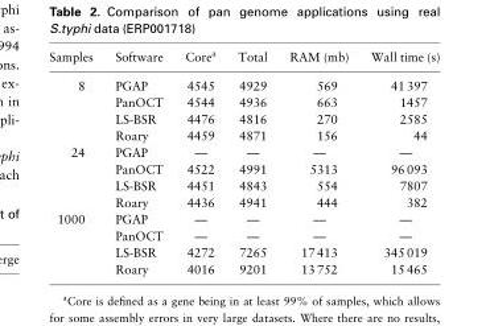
<table><thead><tr><td>Samples</td><td>Software</td><td>Core<sup>a</sup></td><td>Total</td><td>RAM (mb)</td><td>Wall time (s)</td></tr></thead><tbody><tr><td rowspan="4">8</td><td>PGAP</td><td>4545</td><td>4929</td><td>569</td><td>41 397</td></tr><tr><td>PanOCT</td><td>4544</td><td>4936</td><td>663</td><td>1457</td></tr><tr><td>LS-BSR</td><td>4476</td><td>4816</td><td>270</td><td>2585</td></tr><tr><td>Roary</td><td>4459</td><td>4871</td><td>156</td><td>44</td></tr><tr><td rowspan="4">24</td><td>PGAP</td><td>—</td><td>—</td><td>—</td><td>—</td></tr><tr><td>PanOCT</td><td>4522</td><td>4991</td><td>5313</td><td>96 093</td></tr><tr><td>LS-BSR</td><td>4451</td><td>4843</td><td>554</td><td>7807</td></tr><tr><td>Roary</td><td>4436</td><td>4941</td><td>444</td><td>382</td></tr><tr><td rowspan="4">1000</td><td>PGAP</td><td>—</td><td>—</td><td>—</td><td>—</td></tr><tr><td>PanOCT</td><td>—</td><td>—</td><td>—</td><td>—</td></tr><tr><td>LS-BSR</td><td>4272</td><td>7265</td><td>17 413</td><td>345 019</td></tr><tr><td>Roary</td><td>4016</td><td>9201</td><td>13 752</td><td>15 465</td></tr></tbody></table>